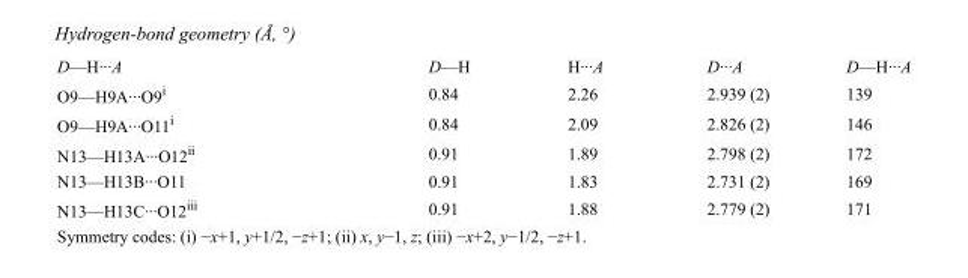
<table><tbody><tr><td>D—H···A</td><td>D—H</td><td>H···A</td><td>D···A</td><td>D—H···A</td></tr><tr><td>O9—H9A···O9<sup>i</sup></td><td>0.84</td><td>2.26</td><td>2.939 (2)</td><td>139</td></tr><tr><td>O9—H9A···O11<sup>i</sup></td><td>0.84</td><td>2.09</td><td>2.826 (2)</td><td>146</td></tr><tr><td>N13—H13A···O12<sup>ii</sup></td><td>0.91</td><td>1.89</td><td>2.798 (2)</td><td>172</td></tr><tr><td>N13—H13B···O11</td><td>0.91</td><td>1.83</td><td>2.731 (2)</td><td>169</td></tr><tr><td>N13—H13C···O12<sup>iii</sup></td><td>0.91</td><td>1.88</td><td>2.779 (2)</td><td>171</td></tr></tbody></table>